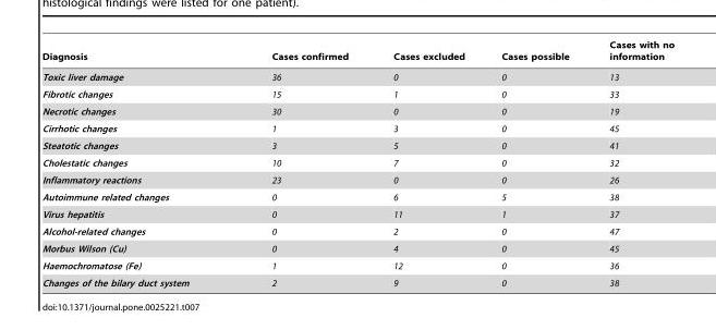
<table><thead><tr><td>Diagnosis</td><td>Cases confirmed</td><td>Cases excluded</td><td>Cases possible</td><td>Cases with no information</td></tr></thead><tbody><tr><td>Toxic liver damage</td><td>36</td><td>0</td><td>0</td><td>13</td></tr><tr><td>Fibrotic changes</td><td>15</td><td>1</td><td>0</td><td>33</td></tr><tr><td>Necrotic changes</td><td>30</td><td>0</td><td>0</td><td>19</td></tr><tr><td>Cirrhotic changes</td><td>1</td><td>3</td><td>0</td><td>45</td></tr><tr><td>Steatotic changes</td><td>3</td><td>5</td><td>0</td><td>41</td></tr><tr><td>Cholestatic changes</td><td>10</td><td>7</td><td>0</td><td>32</td></tr><tr><td>Inflammatory reactions</td><td>23</td><td>0</td><td>0</td><td>26</td></tr><tr><td>Autoimmune related changes</td><td>0</td><td>6</td><td>5</td><td>38</td></tr><tr><td>Virus hepatitis</td><td>0</td><td>11</td><td>1</td><td>37</td></tr><tr><td>Alcohol-related changes</td><td>0</td><td>2</td><td>0</td><td>47</td></tr><tr><td>Morbus Wilson (Cu)</td><td>0</td><td>4</td><td>0</td><td>45</td></tr><tr><td>Haemochromatose (Fe)</td><td>1</td><td>12</td><td>0</td><td>36</td></tr><tr><td>Changes of the bilary duct system</td><td>2</td><td>9</td><td>0</td><td>38</td></tr></tbody></table>